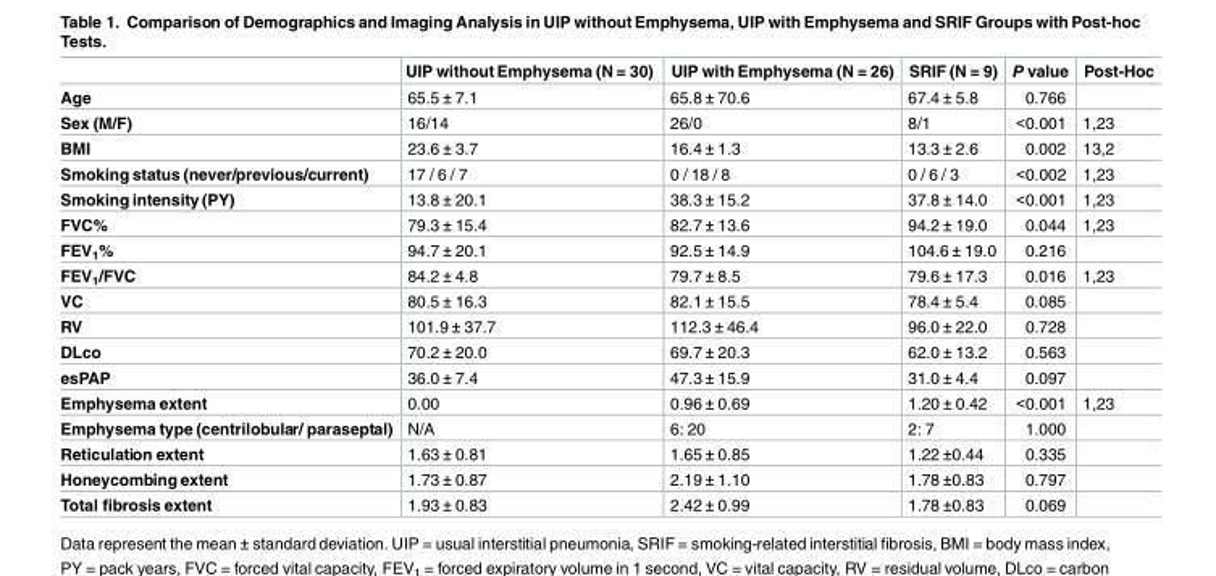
<table><thead><tr><td></td><td>UIP without Emphysema (N = 30)</td><td>UIP with Emphysema (N = 26)</td><td>SRIF (N = 9)</td><td>P value</td><td>Post-Hoc</td></tr></thead><tbody><tr><td>Age</td><td>65.5 ± 7.1</td><td>65.8 ± 70.6</td><td>67.4 ± 5.8</td><td>0.766</td><td></td></tr><tr><td>Sex (M/F)</td><td>16/14</td><td>26/0</td><td>8/1</td><td>&lt;0.001</td><td>1,23</td></tr><tr><td>BMI</td><td>23.6 ± 3.7</td><td>16.4 ± 1.3</td><td>13.3 ± 2.6</td><td>0.002</td><td>13,2</td></tr><tr><td>Smoking status (never/previous/current)</td><td>17 / 6 / 7</td><td>0 / 18 / 8</td><td>0 / 6 / 3</td><td>&lt;0.002</td><td>1,23</td></tr><tr><td>Smoking intensity (PY)</td><td>13.8 ± 20.1</td><td>38.3 ± 15.2</td><td>37.8 ± 14.0</td><td>&lt;0.001</td><td>1,23</td></tr><tr><td>FVC%</td><td>79.3 ± 15.4</td><td>82.7 ± 13.6</td><td>94.2 ± 19.0</td><td>0.044</td><td>1,23</td></tr><tr><td>FEV<sub>1</sub>%</td><td>94.7 ± 20.1</td><td>92.5 ± 14.9</td><td>104.6 ± 19.0</td><td>0.216</td><td></td></tr><tr><td>FEV<sub>1</sub>/FVC</td><td>84.2 ± 4.8</td><td>79.7 ± 8.5</td><td>79.6 ± 17.3</td><td>0.016</td><td>1,23</td></tr><tr><td>VC</td><td>80.5 ± 16.3</td><td>82.1 ± 15.5</td><td>78.4 ± 5.4</td><td>0.085</td><td></td></tr><tr><td>RV</td><td>101.9 ± 37.7</td><td>112.3 ± 46.4</td><td>96.0 ± 22.0</td><td>0.728</td><td></td></tr><tr><td>DLco</td><td>70.2 ± 20.0</td><td>69.7 ± 20.3</td><td>62.0 ± 13.2</td><td>0.563</td><td></td></tr><tr><td>esPAP</td><td>36.0 ± 7.4</td><td>47.3 ± 15.9</td><td>31.0 ± 4.4</td><td>0.097</td><td></td></tr><tr><td>Emphysema extent</td><td>0.00</td><td>0.96 ± 0.69</td><td>1.20 ± 0.42</td><td>&lt;0.001</td><td>1,23</td></tr><tr><td>Emphysema type (centrilobular/ paraseptal)</td><td>N/A</td><td>6: 20</td><td>2: 7</td><td>1.000</td><td></td></tr><tr><td>Reticulation extent</td><td>1.63 ± 0.81</td><td>1.65 ± 0.85</td><td>1.22 ±0.44</td><td>0.335</td><td></td></tr><tr><td>Honeycombing extent</td><td>1.73 ± 0.87</td><td>2.19 ± 1.10</td><td>1.78 ±0.83</td><td>0.797</td><td></td></tr><tr><td>Total fibrosis extent</td><td>1.93 ± 0.83</td><td>2.42 ± 0.99</td><td>1.78 ±0.83</td><td>0.069</td><td></td></tr></tbody></table>